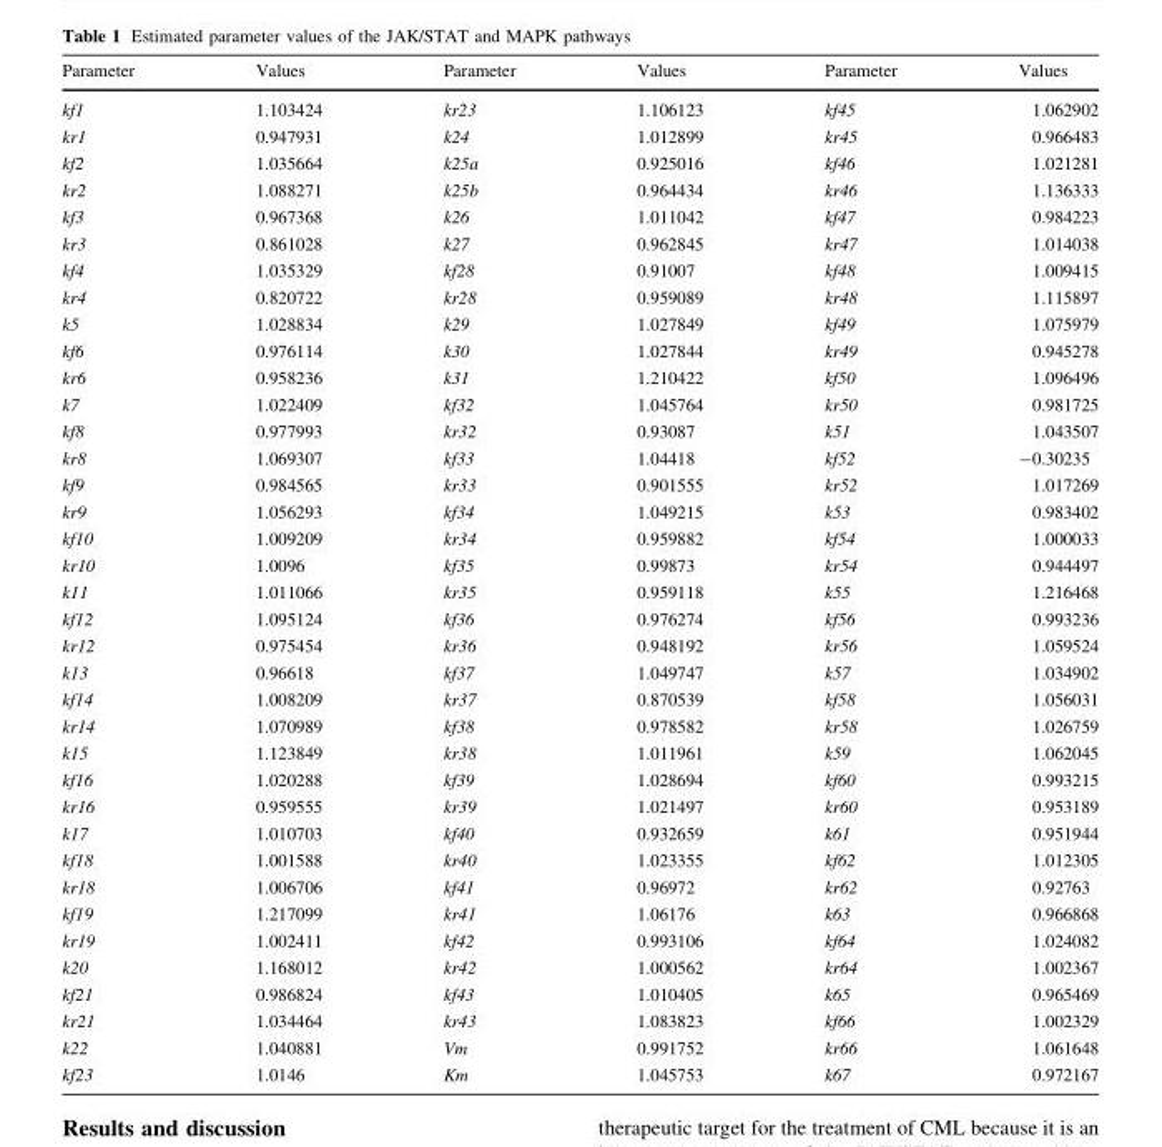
<table><thead><tr><td>Parameter</td><td>Values</td><td>Parameter</td><td>Values</td><td>Parameter</td><td>Values</td></tr></thead><tbody><tr><td>kf1</td><td>1.103424</td><td>kr23</td><td>1.106123</td><td>kf45</td><td>1.062902</td></tr><tr><td>kr1</td><td>0.947931</td><td>k24</td><td>1.012899</td><td>kr45</td><td>0.966483</td></tr><tr><td>kf2</td><td>1.035664</td><td>k25a</td><td>0.925016</td><td>kf46</td><td>1.021281</td></tr><tr><td>kr2</td><td>1.088271</td><td>k25b</td><td>0.964434</td><td>kr46</td><td>1.136333</td></tr><tr><td>kf3</td><td>0.967368</td><td>k26</td><td>1.011042</td><td>kf47</td><td>0.984223</td></tr><tr><td>kr3</td><td>0.861028</td><td>k27</td><td>0.962845</td><td>kr47</td><td>1.014038</td></tr><tr><td>kf4</td><td>1.035329</td><td>kf28</td><td>0.91007</td><td>kf48</td><td>1.009415</td></tr><tr><td>kr4</td><td>0.820722</td><td>kr28</td><td>0.959089</td><td>kr48</td><td>1.115897</td></tr><tr><td>k5</td><td>1.028834</td><td>k29</td><td>1.027849</td><td>kf49</td><td>1.075979</td></tr><tr><td>kf6</td><td>0.976114</td><td>k30</td><td>1.027844</td><td>kr49</td><td>0.945278</td></tr><tr><td>kr6</td><td>0.958236</td><td>k31</td><td>1.210422</td><td>kf50</td><td>1.096496</td></tr><tr><td>k7</td><td>1.022409</td><td>kf32</td><td>1.045764</td><td>kr50</td><td>0.981725</td></tr><tr><td>kf8</td><td>0.977993</td><td>kr32</td><td>0.93087</td><td>k51</td><td>1.043507</td></tr><tr><td>kr8</td><td>1.069307</td><td>kf33</td><td>1.04418</td><td>kf52</td><td>-0.30235</td></tr><tr><td>kf9</td><td>0.984565</td><td>kr33</td><td>0.901555</td><td>kr52</td><td>1.017269</td></tr><tr><td>kr9</td><td>1.056293</td><td>kf34</td><td>1.049215</td><td>k53</td><td>0.983402</td></tr><tr><td>kf10</td><td>1.009209</td><td>kr34</td><td>0.959882</td><td>kf54</td><td>1.000033</td></tr><tr><td>kr10</td><td>1.0096</td><td>kf35</td><td>0.99873</td><td>kr54</td><td>0.944497</td></tr><tr><td>k11</td><td>1.011066</td><td>kr35</td><td>0.959118</td><td>k55</td><td>1.216468</td></tr><tr><td>kf12</td><td>1.095124</td><td>kf36</td><td>0.976274</td><td>kf56</td><td>0.993236</td></tr><tr><td>kr12</td><td>0.975454</td><td>kr36</td><td>0.948192</td><td>kr56</td><td>1.059524</td></tr><tr><td>k13</td><td>0.96618</td><td>kf37</td><td>1.049747</td><td>k57</td><td>1.034902</td></tr><tr><td>kf14</td><td>1.008209</td><td>kr37</td><td>0.870539</td><td>kf58</td><td>1.056031</td></tr><tr><td>kr14</td><td>1.070989</td><td>kf38</td><td>0.978582</td><td>kr58</td><td>1.026759</td></tr><tr><td>k15</td><td>1.123849</td><td>kr38</td><td>1.011961</td><td>k59</td><td>1.062045</td></tr><tr><td>kf16</td><td>1.020288</td><td>kf39</td><td>1.028694</td><td>kf60</td><td>0.993215</td></tr><tr><td>kr16</td><td>0.959555</td><td>kr39</td><td>1.021497</td><td>kr60</td><td>0.953189</td></tr><tr><td>k17</td><td>1.010703</td><td>kf40</td><td>0.932659</td><td>k61</td><td>0.951944</td></tr><tr><td>kf18</td><td>1.001588</td><td>kr40</td><td>1.023355</td><td>kf62</td><td>1.012305</td></tr><tr><td>kr18</td><td>1.006706</td><td>kf41</td><td>0.96972</td><td>kr62</td><td>0.92763</td></tr><tr><td>kf19</td><td>1.217099</td><td>kr41</td><td>1.06176</td><td>k63</td><td>0.966868</td></tr><tr><td>kr19</td><td>1.002411</td><td>kf42</td><td>0.993106</td><td>kf64</td><td>1.024082</td></tr><tr><td>k20</td><td>1.168012</td><td>kr42</td><td>1.000562</td><td>kr64</td><td>1.002367</td></tr><tr><td>kf21</td><td>0.986824</td><td>kf43</td><td>1.010405</td><td>k65</td><td>0.965469</td></tr><tr><td>kr21</td><td>1.034464</td><td>kr43</td><td>1.083823</td><td>kf66</td><td>1.002329</td></tr><tr><td>k22</td><td>1.040881</td><td>Vm</td><td>0.991752</td><td>kr66</td><td>1.061648</td></tr><tr><td>kf23</td><td>1.0146</td><td>Km</td><td>1.045753</td><td>k67</td><td>0.972167</td></tr></tbody></table>